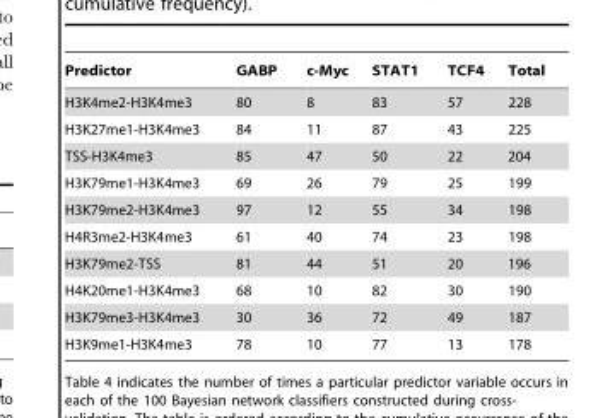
<table><thead><tr><td>Predictor</td><td>GABP</td><td>c-Myc</td><td>STAT1</td><td>TCF4</td><td>Total</td></tr></thead><tbody><tr><td>H3K4me2-H3K4me3</td><td>80</td><td>8</td><td>83</td><td>57</td><td>228</td></tr><tr><td>H3K27me1-H3K4me3</td><td>84</td><td>11</td><td>87</td><td>43</td><td>225</td></tr><tr><td>TSS-H3K4me3</td><td>85</td><td>47</td><td>50</td><td>22</td><td>204</td></tr><tr><td>H3K79me1-H3K4me3</td><td>69</td><td>26</td><td>79</td><td>25</td><td>199</td></tr><tr><td>H3K79me2-H3K4me3</td><td>97</td><td>12</td><td>55</td><td>34</td><td>198</td></tr><tr><td>H4R3me2-H3K4me3</td><td>61</td><td>40</td><td>74</td><td>23</td><td>198</td></tr><tr><td>H3K79me2-TSS</td><td>81</td><td>44</td><td>51</td><td>20</td><td>196</td></tr><tr><td>H4K20me1-H3K4me3</td><td>68</td><td>10</td><td>82</td><td>30</td><td>190</td></tr><tr><td>H3K79me3-H3K4me3</td><td>30</td><td>36</td><td>72</td><td>49</td><td>187</td></tr><tr><td>H3K9me1-H3K4me3</td><td>78</td><td>10</td><td>77</td><td>13</td><td>178</td></tr></tbody></table>